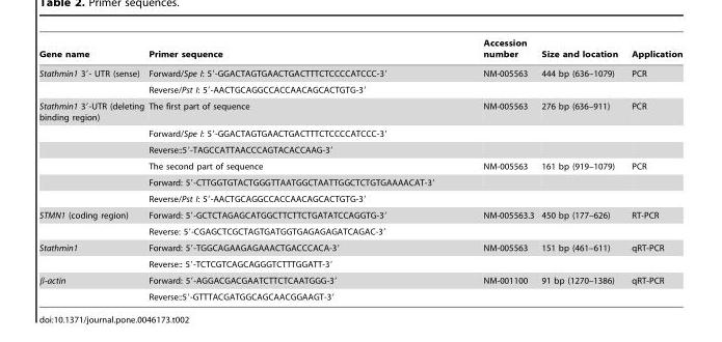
<table><thead><tr><td>Gene name</td><td>Primer sequence</td><td>Accession number</td><td>Size and location</td><td>Application</td></tr></thead><tbody><tr><td rowspan="2">Stathmin1 3′- UTR (sense)</td><td>Forward/Spe I: 5′-GGACTAGTGAACTGACTTTCTCCCCATCCC-3′</td><td>NM-005563</td><td>444 bp (636–1079)</td><td>PCR</td></tr><tr><td>Reverse/Pst I: 5′-AACTGCAGGCCACCAACAGCACTGTG-3′</td><td></td><td></td><td></td></tr><tr><td rowspan="6">Stathmin1 3′-UTR (deleting binding region)</td><td>The first part of sequence</td><td>NM-005563</td><td>276 bp (636–911)</td><td>PCR</td></tr><tr><td>Forward/Spe I: 5′-GGACTAGTGAACTGACTTTCTCCCCATCCC-3′</td><td></td><td></td><td></td></tr><tr><td>Reverse::5′-TAGCCATTAACCCAGTACACCAAG-3′</td><td></td><td></td><td></td></tr><tr><td>The second part of sequence</td><td>NM-005563</td><td>161 bp (919–1079)</td><td>PCR</td></tr><tr><td>Forward: 5′-CTTGGTGTACTGGGTTAATGGCTAATTGGCTCTGTGAAAACAT-3′</td><td></td><td></td><td></td></tr><tr><td>Reverse/Pst I: 5′-AACTGCAGGCCACCAACAGCACTGTG-3′</td><td></td><td></td><td></td></tr><tr><td rowspan="2">STMN1 (coding region)</td><td>Forward: 5′-GCTCTAGAGCATGGCTTCTTCTGATATCCAGGTG-3′</td><td>NM-005563.3</td><td>450 bp (177–626)</td><td>RT-PCR</td></tr><tr><td>Reverse: 5′-CGAGCTCGCTAGTGATGGTGAGAGAGATCAGAC-3′</td><td></td><td></td><td></td></tr><tr><td rowspan="2">Stathmin1</td><td>Forward: 5′-TGGCAGAAGAGAAACTGACCCACA-3′</td><td>NM-005563</td><td>151 bp (461–611)</td><td>qRT-PCR</td></tr><tr><td>Reverse:: 5′-TCTCGTCAGCAGGGTCTTTGGATT-3′</td><td></td><td></td><td></td></tr><tr><td rowspan="2">β-actin</td><td>Forward: 5′-AGGACGACGAATCTTCTCAATGGG-3′</td><td>NM-001100</td><td>91 bp (1270–1386)</td><td>qRT-PCR</td></tr><tr><td>Reverse::5′-GTTTACGATGGCAGCAACGGAAGT-3′</td><td></td><td></td><td></td></tr></tbody></table>